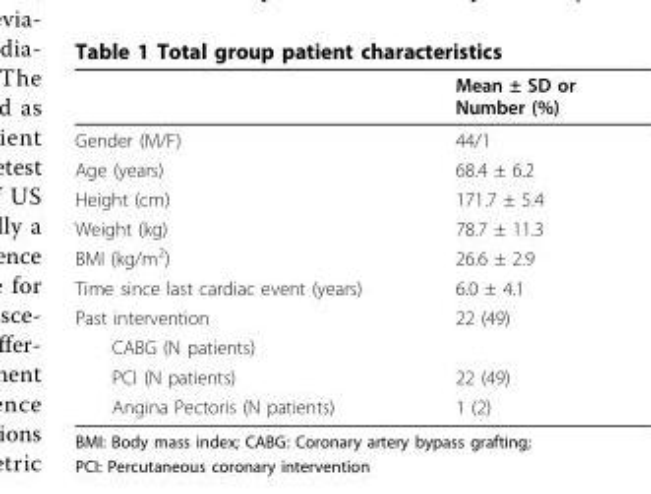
<table><thead><tr><td></td><td>Mean ± SD or Number (%)</td></tr></thead><tbody><tr><td>Gender (M/F)</td><td>44/1</td></tr><tr><td>Age (years)</td><td>68.4 ± 6.2</td></tr><tr><td>Height (cm)</td><td>171.7 ± 5.4</td></tr><tr><td>Weight (kg)</td><td>78.7 ± 11.3</td></tr><tr><td>BMI (kg/m<sup>2</sup>)</td><td>26.6 ± 2.9</td></tr><tr><td>Time since last cardiac event (years)</td><td>6.0 ± 4.1</td></tr><tr><td>Past intervention</td><td>22 (49)</td></tr><tr><td colspan="2">CABG (N patients)</td></tr><tr><td>PCI (N patients)</td><td>22 (49)</td></tr><tr><td>Angina Pectoris (N patients)</td><td>1 (2)</td></tr></tbody></table>